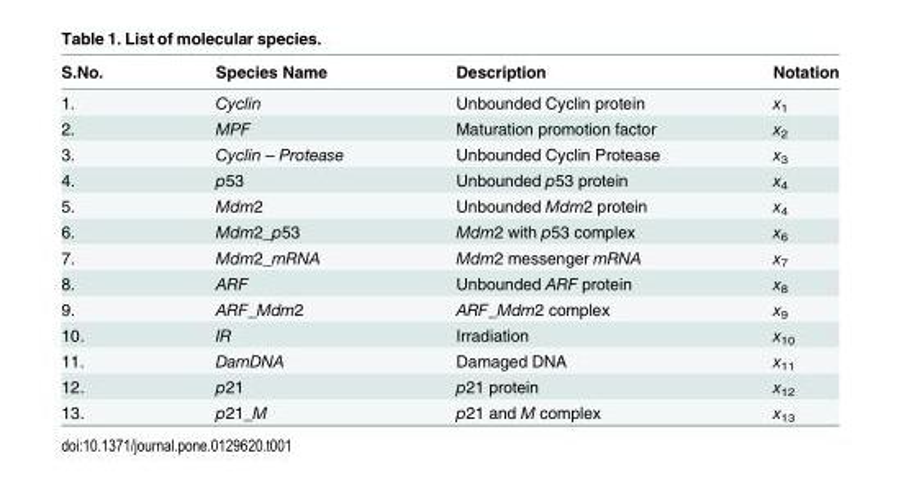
<table><thead><tr><td>S.No.</td><td>Species Name</td><td>Description</td><td>Notation</td></tr></thead><tbody><tr><td>1.</td><td>Cyclin</td><td>Unbounded Cyclin protein</td><td>x<sub>1</sub></td></tr><tr><td>2.</td><td>MPF</td><td>Maturation promotion factor</td><td>x<sub>2</sub></td></tr><tr><td>3.</td><td>Cyclin – Protease</td><td>Unbounded Cyclin Protease</td><td>x<sub>3</sub></td></tr><tr><td>4.</td><td>p53</td><td>Unbounded p53 protein</td><td>x<sub>4</sub></td></tr><tr><td>5.</td><td>Mdm2</td><td>Unbounded Mdm2 protein</td><td>x<sub>4</sub></td></tr><tr><td>6.</td><td>Mdm2_p53</td><td>Mdm2 with p53 complex</td><td>x<sub>6</sub></td></tr><tr><td>7.</td><td>Mdm2_mRNA</td><td>Mdm2 messenger mRNA</td><td>x<sub>7</sub></td></tr><tr><td>8.</td><td>ARF</td><td>Unbounded ARF protein</td><td>x<sub>8</sub></td></tr><tr><td>9.</td><td>ARF_Mdm2</td><td>ARF_Mdm2 complex</td><td>x<sub>9</sub></td></tr><tr><td>10.</td><td>IR</td><td>Irradiation</td><td>x<sub>10</sub></td></tr><tr><td>11.</td><td>DamDNA</td><td>Damaged DNA</td><td>x<sub>11</sub></td></tr><tr><td>12.</td><td>p21</td><td>p21 protein</td><td>x<sub>12</sub></td></tr><tr><td>13.</td><td>p21_M</td><td>p21 and M complex</td><td>x<sub>13</sub></td></tr></tbody></table>